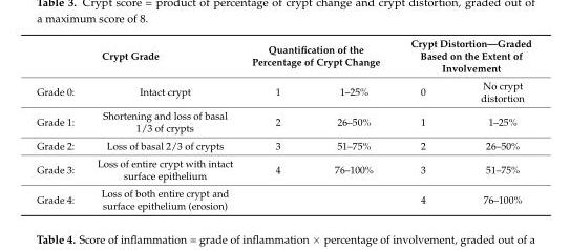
<table><thead><tr><td colspan="2">Crypt Grade</td><td colspan="2">Quantification of the Percentage of Crypt Change</td><td colspan="2">Crypt Distortion—Graded Based on the Extent of Involvement</td></tr><tr><td>Grade 0:</td><td>Intact crypt</td><td>1</td><td>1–25%</td><td>0</td><td>No crypt distortion</td></tr></thead><tbody><tr><td>Grade 1:</td><td>Shortening and loss of basal 1/3 of crypts</td><td>2</td><td>26–50%</td><td>1</td><td>1–25%</td></tr><tr><td>Grade 2:</td><td>Loss of basal 2/3 of crypts</td><td>3</td><td>51–75%</td><td>2</td><td>26–50%</td></tr><tr><td>Grade 3:</td><td>Loss of entire crypt with intact surface epithelium</td><td>4</td><td>76–100%</td><td>3</td><td>51–75%</td></tr><tr><td>Grade 4:</td><td>Loss of both entire crypt and surface epithelium (erosion)</td><td></td><td></td><td>4</td><td>76–100%</td></tr></tbody></table>